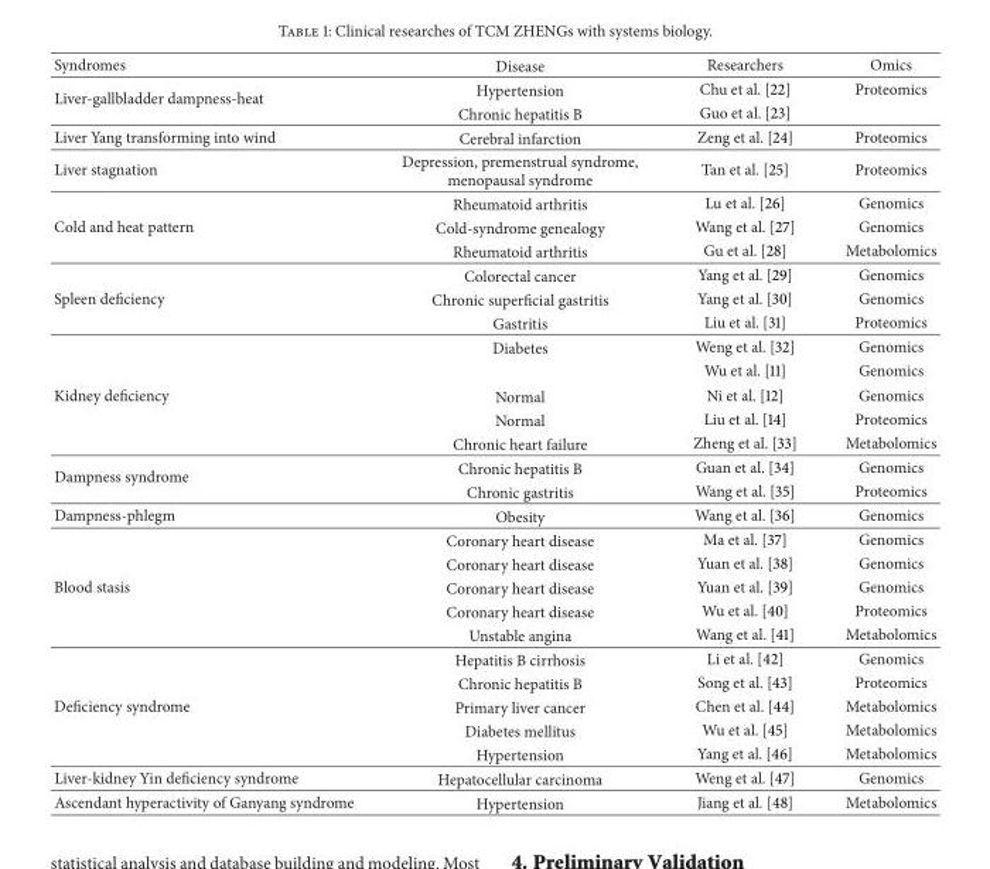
<table><thead><tr><td>Syndromes</td><td>Disease</td><td>Researchers</td><td>Omics</td></tr></thead><tbody><tr><td rowspan="2">Liver-gallbladder dampness-heat</td><td>Hypertension</td><td>Chu et al. [22]</td><td>Proteomics</td></tr><tr><td>Chronic hepatitis B</td><td>Guo et al. [23]</td><td></td></tr><tr><td>Liver Yang transforming into wind</td><td>Cerebral infarction</td><td>Zeng et al. [24]</td><td>Proteomics</td></tr><tr><td rowspan="2">Liver stagnation</td><td>Depression, premenstrual syndrome, menopausal syndrome</td><td>Tan et al. [25]</td><td>Proteomics</td></tr><tr><td>Rheumatoid arthritis</td><td>Lu et al. [26]</td><td>Genomics</td></tr><tr><td rowspan="3">Cold and heat pattern</td><td>Cold-syndrome genealogy</td><td>Wang et al. [27]</td><td>Genomics</td></tr><tr><td>Rheumatoid arthritis</td><td>Gu et al. [28]</td><td>Metabolomics</td></tr><tr><td>Colorectal cancer</td><td>Yang et al. [29]</td><td>Genomics</td></tr><tr><td rowspan="4">Spleen deficiency</td><td>Chronic superficial gastritis</td><td>Yang et al. [30]</td><td>Genomics</td></tr><tr><td>Gastritis</td><td>Liu et al. [31]</td><td>Proteomics</td></tr><tr><td>Diabetes</td><td>Weng et al. [32]</td><td>Genomics</td></tr><tr><td></td><td>Wu et al. [11]</td><td>Genomics</td></tr><tr><td rowspan="3">Kidney deficiency</td><td>Normal</td><td>Ni et al. [12]</td><td>Genomics</td></tr><tr><td>Normal</td><td>Liu et al. [14]</td><td>Proteomics</td></tr><tr><td>Chronic heart failure</td><td>Zheng et al. [33]</td><td>Metabolomics</td></tr><tr><td rowspan="2">Dampness syndrome</td><td>Chronic hepatitis B</td><td>Guan et al. [34]</td><td>Genomics</td></tr><tr><td>Chronic gastritis</td><td>Wang et al. [35]</td><td>Proteomics</td></tr><tr><td rowspan="3">Dampness-phlegm</td><td>Obesity</td><td>Wang et al. [36]</td><td>Genomics</td></tr><tr><td>Coronary heart disease</td><td>Ma et al. [37]</td><td>Genomics</td></tr><tr><td>Coronary heart disease</td><td>Yuan et al. [38]</td><td>Genomics</td></tr><tr><td rowspan="5">Blood stasis</td><td>Coronary heart disease</td><td>Yuan et al. [39]</td><td>Genomics</td></tr><tr><td>Coronary heart disease</td><td>Wu et al. [40]</td><td>Proteomics</td></tr><tr><td>Unstable angina</td><td>Wang et al. [41]</td><td>Metabolomics</td></tr><tr><td>Hepatitis B cirrhosis</td><td>Li et al. [42]</td><td>Genomics</td></tr><tr><td>Chronic hepatitis B</td><td>Song et al. [43]</td><td>Proteomics</td></tr><tr><td rowspan="3">Deficiency syndrome</td><td>Primary liver cancer</td><td>Chen et al. [44]</td><td>Metabolomics</td></tr><tr><td>Diabetes mellitus</td><td>Wu et al. [45]</td><td>Metabolomics</td></tr><tr><td>Hypertension</td><td>Yang et al. [46]</td><td>Metabolomics</td></tr><tr><td>Liver-kidney Yin deficiency syndrome</td><td>Hepatocellular carcinoma</td><td>Weng et al. [47]</td><td>Genomics</td></tr><tr><td>Ascendant hyperactivity of Ganyang syndrome</td><td>Hypertension</td><td>Jiang et al. [48]</td><td>Metabolomics</td></tr></tbody></table>